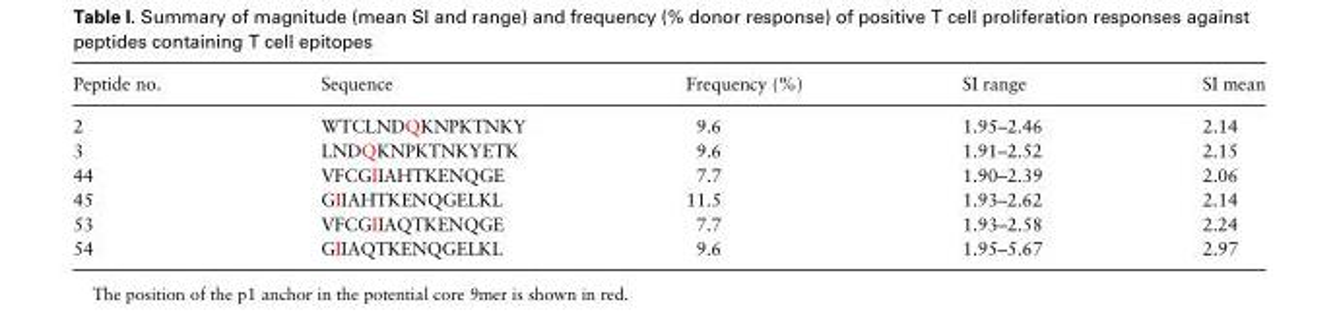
<table><thead><tr><td>Peptide no.</td><td>Sequence</td><td>Frequency (%)</td><td>SI range</td><td>SI mean</td></tr></thead><tbody><tr><td>2</td><td>WTCLNDQKNPKTNKY</td><td>9.6</td><td>1.95–2.46</td><td>2.14</td></tr><tr><td>3</td><td>LNDQKNPKTNKYETK</td><td>9.6</td><td>1.91–2.52</td><td>2.15</td></tr><tr><td>44</td><td>VFCGIIAHTKENQGE</td><td>7.7</td><td>1.90–2.39</td><td>2.06</td></tr><tr><td>45</td><td>GIIAHTKENQGELKL</td><td>11.5</td><td>1.93–2.62</td><td>2.14</td></tr><tr><td>53</td><td>VFCGIIAQTKENQGE</td><td>7.7</td><td>1.93–2.58</td><td>2.24</td></tr><tr><td>54</td><td>GIIAQTKENQGELKL</td><td>9.6</td><td>1.95–5.67</td><td>2.97</td></tr></tbody></table>